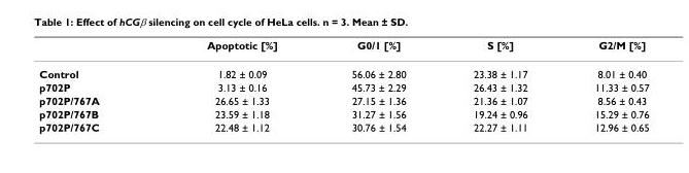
<table><thead><tr><td></td><td>Apoptotic [%]</td><td>G0/1 [%]</td><td>S [%]</td><td>G2/M [%]</td></tr></thead><tbody><tr><td>Control</td><td>1.82 ± 0.09</td><td>56.06 ± 2.80</td><td>23.38 ± 1.17</td><td>8.01 ± 0.40</td></tr><tr><td>p702P</td><td>3.13 ± 0.16</td><td>45.73 ± 2.29</td><td>26.43 ± 1.32</td><td>11.33 ± 0.57</td></tr><tr><td>p702P/767A</td><td>26.65 ± 1.33</td><td>27.15 ± 1.36</td><td>21.36 ± 1.07</td><td>8.56 ± 0.43</td></tr><tr><td>p702P/767B</td><td>23.59 ± 1.18</td><td>31.27 ± 1.56</td><td>19.24 ± 0.96</td><td>15.29 ± 0.76</td></tr><tr><td>p702P/767C</td><td>22.48 ± 1.12</td><td>30.76 ± 1.54</td><td>22.27 ± 1.11</td><td>12.96 ± 0.65</td></tr></tbody></table>